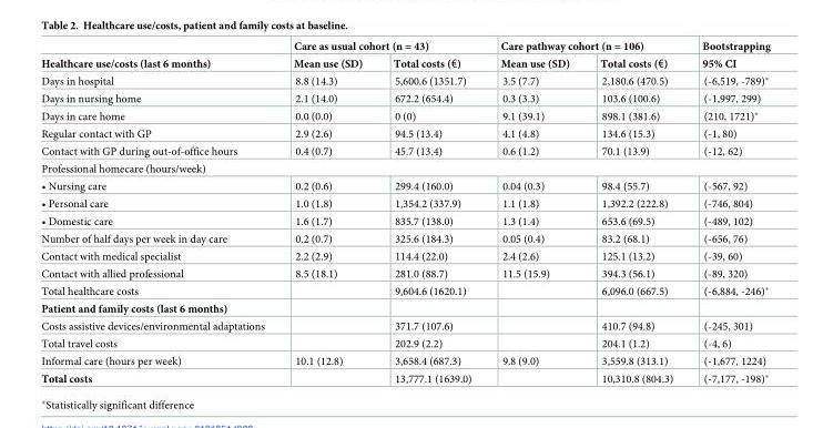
<table><thead><tr><td rowspan="2">Healthcare use/costs (last 6 months)</td><td colspan="2">Care as usual cohort (n = 43)</td><td colspan="2">Care pathway cohort (n = 106)</td><td rowspan="2">Bootstrapping 95% CI</td></tr><tr><td>Mean use (SD)</td><td>Total costs (€)</td><td>Mean use (SD)</td><td>Total costs (€)</td></tr></thead><tbody><tr><td>Days in hospital</td><td>8.8 (14.3)</td><td>5,600.6 (1351.7)</td><td>3.5 (7.7)</td><td>2,180.6 (470.5)</td><td>(-6,519, -789)*</td></tr><tr><td>Days in nursing home</td><td>2.1 (14.0)</td><td>672.2 (654.4)</td><td>0.3 (3.3)</td><td>103.6 (100.6)</td><td>(-1,997, 299)</td></tr><tr><td>Days in care home</td><td>0.0 (0.0)</td><td>0 (0)</td><td>9.1 (39.1)</td><td>898.1 (381.6)</td><td>(210, 1721)*</td></tr><tr><td>Regular contact with GP</td><td>2.9 (2.6)</td><td>94.5 (13.4)</td><td>4.1 (4.8)</td><td>134.6 (15.3)</td><td>(-1, 80)</td></tr><tr><td>Contact with GP during out-of-office hours</td><td>0.4 (0.7)</td><td>45.7 (13.4)</td><td>0.6 (1.2)</td><td>70.1 (13.9)</td><td>(-12, 62)</td></tr><tr><td colspan="6">Professional homecare (hours/week)</td></tr><tr><td>• Nursing care</td><td>0.2 (0.6)</td><td>299.4 (160.0)</td><td>0.04 (0.3)</td><td>98.4 (55.7)</td><td>(-567, 92)</td></tr><tr><td>• Personal care</td><td>1.0 (1.8)</td><td>1,354.2 (337.9)</td><td>1.1 (1.8)</td><td>1,392.2 (222.8)</td><td>(-746, 804)</td></tr><tr><td>• Domestic care</td><td>1.6 (1.7)</td><td>835.7 (138.0)</td><td>1.3 (1.4)</td><td>653.6 (69.5)</td><td>(-489, 102)</td></tr><tr><td>Number of half days per week in day care</td><td>0.2 (0.7)</td><td>325.6 (184.3)</td><td>0.05 (0.4)</td><td>83.2 (68.1)</td><td>(-656, 76)</td></tr><tr><td>Contact with medical specialist</td><td>2.2 (2.9)</td><td>114.4 (22.0)</td><td>2.4 (2.6)</td><td>125.1 (13.2)</td><td>(-39, 60)</td></tr><tr><td>Contact with allied professional</td><td>8.5 (18.1)</td><td>281.0 (88.7)</td><td>11.5 (15.9)</td><td>394.3 (56.1)</td><td>(-89, 320)</td></tr><tr><td>Total healthcare costs</td><td></td><td>9,604.6 (1620.1)</td><td></td><td>6,096.0 (667.5)</td><td>(-6,884, -246)*</td></tr><tr><td colspan="6">Patient and family costs (last 6 months)</td></tr><tr><td>Costs assistive devices/environmental adaptations</td><td></td><td>371.7 (107.6)</td><td></td><td>410.7 (94.8)</td><td>(-245, 301)</td></tr><tr><td>Total travel costs</td><td></td><td>202.9 (2.2)</td><td></td><td>204.1 (1.2)</td><td>(-4, 6)</td></tr><tr><td>Informal care (hours per week)</td><td>10.1 (12.8)</td><td>3,658.4 (687.3)</td><td>9.8 (9.0)</td><td>3,559.8 (313.1)</td><td>(-1,677, 1224)</td></tr><tr><td>Total costs</td><td></td><td>13,777.1 (1639.0)</td><td></td><td>10,310.8 (804.3)</td><td>(-7,177, -198)*</td></tr></tbody></table>